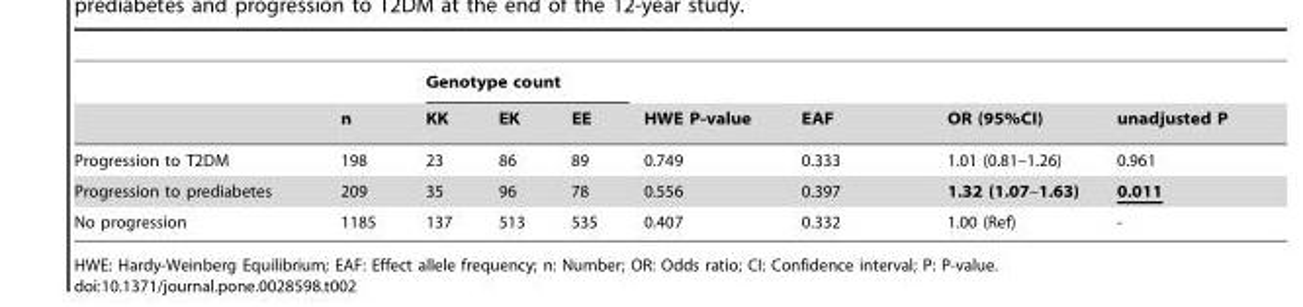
<table><thead><tr><td rowspan="2"></td><td rowspan="2">n</td><td colspan="3">Genotype count</td><td rowspan="2">HWE P-value</td><td rowspan="2">EAF</td><td rowspan="2">OR (95%CI)</td><td rowspan="2">unadjusted P</td></tr><tr><td>KK</td><td>EK</td><td>EE</td></tr></thead><tbody><tr><td>Progression to T2DM</td><td>198</td><td>23</td><td>86</td><td>89</td><td>0.749</td><td>0.333</td><td>1.01 (0.81–1.26)</td><td>0.961</td></tr><tr><td>Progression to prediabetes</td><td>209</td><td>35</td><td>96</td><td>78</td><td>0.556</td><td>0.397</td><td>1.32 (1.07–1.63)</td><td>0.011</td></tr><tr><td>No progression</td><td>1185</td><td>137</td><td>513</td><td>535</td><td>0.407</td><td>0.332</td><td>1.00 (Ref)</td><td>-</td></tr></tbody></table>